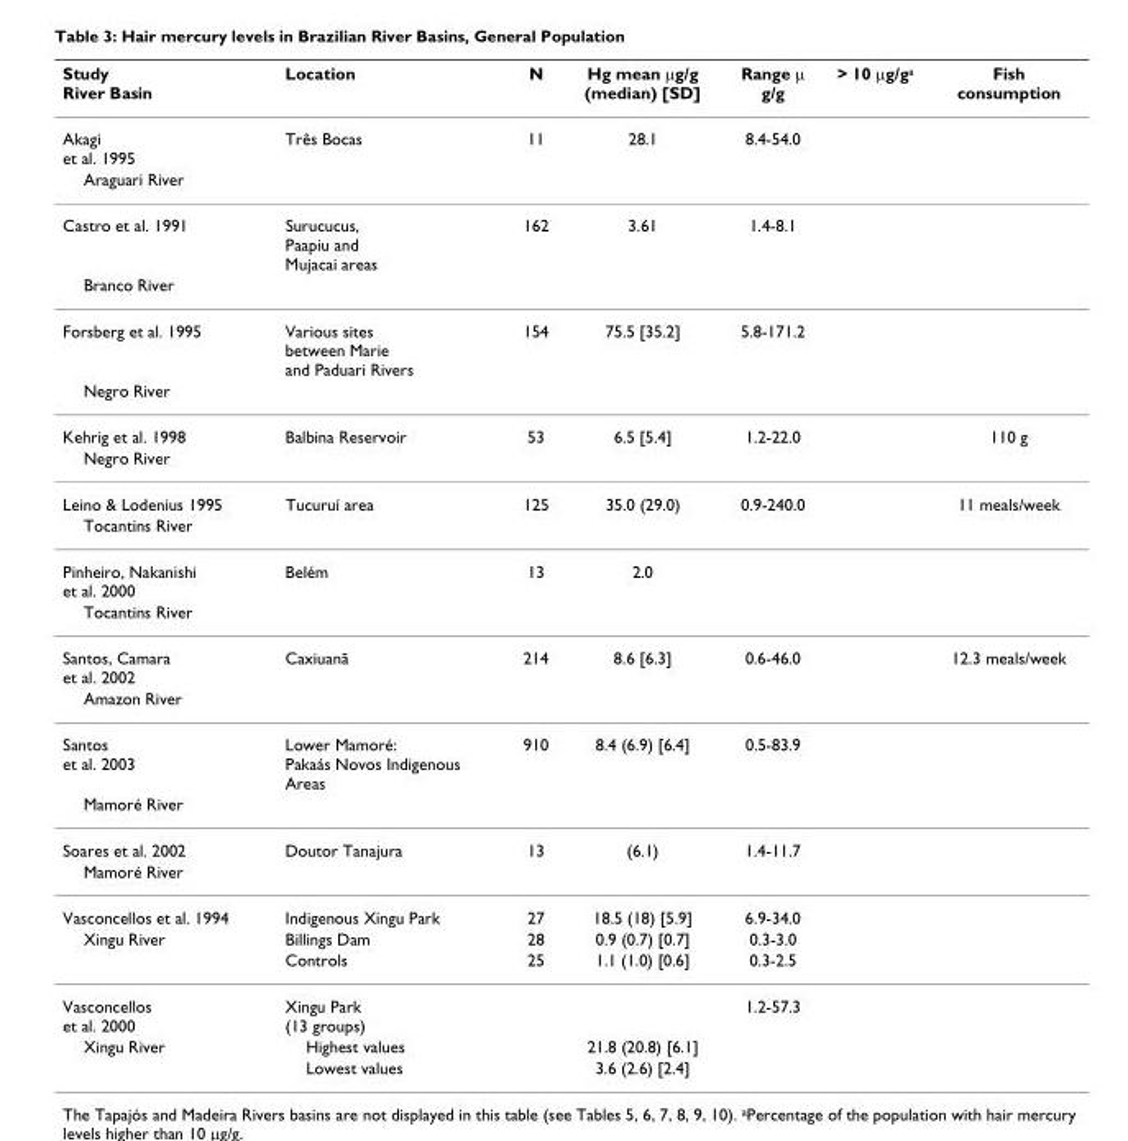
<table><thead><tr><td>Study River Basin</td><td>Location</td><td>N</td><td>Hg mean μg/g (median) [SD]</td><td>Range μ g/g</td><td>&gt; 10 μg/g<sup>a</sup></td><td>Fish consumption</td></tr></thead><tbody><tr><td>Akagi et al. 1995</td><td>Três Bocas</td><td>11</td><td>28.1</td><td>8.4-54.0</td><td></td><td></td></tr><tr><td colspan="7">Araguari River</td></tr><tr><td>Castro et al. 1991</td><td>Surucucus, Paapiu and Mujacai areas</td><td>162</td><td>3.61</td><td>1.4-8.1</td><td></td><td></td></tr><tr><td colspan="7">Branco River</td></tr><tr><td>Forsberg et al. 1995</td><td>Various sites between Marie and Paduari Rivers</td><td>154</td><td>75.5 [35.2]</td><td>5.8-171.2</td><td></td><td></td></tr><tr><td colspan="7">Negro River</td></tr><tr><td>Kehrig et al. 1998</td><td>Balbina Reservoir</td><td>53</td><td>6.5 [5.4]</td><td>1.2-22.0</td><td></td><td>110 g</td></tr><tr><td colspan="7">Negro River</td></tr><tr><td>Leino &amp; Lodenius 1995</td><td>Tucuruí area</td><td>125</td><td>35.0 (29.0)</td><td>0.9-240.0</td><td></td><td>11 meals/week</td></tr><tr><td colspan="7">Tocantins River</td></tr><tr><td>Pinheiro, Nakanishi et al. 2000</td><td>Belém</td><td>13</td><td>2.0</td><td></td><td></td><td></td></tr><tr><td colspan="7">Tocantins River</td></tr><tr><td>Santos, Camara et al. 2002</td><td>Caxiuanã</td><td>214</td><td>8.6 [6.3]</td><td>0.6-46.0</td><td></td><td>12.3 meals/week</td></tr><tr><td colspan="7">Amazon River</td></tr><tr><td>Santos et al. 2003</td><td>Lower Mamoré: Pakaás Novos Indigenous Areas</td><td>910</td><td>8.4 (6.9) [6.4]</td><td>0.5-83.9</td><td></td><td></td></tr><tr><td colspan="7">Mamoré River</td></tr><tr><td>Soares et al. 2002</td><td>Doutor Tanajura</td><td>13</td><td>(6.1)</td><td>1.4-11.7</td><td></td><td></td></tr><tr><td colspan="7">Mamoré River</td></tr><tr><td>Vasconcellos et al. 1994</td><td>Indigenous Xingu Park</td><td>27</td><td>18.5 (18) [5.9]</td><td>6.9-34.0</td><td></td><td></td></tr><tr><td rowspan="2">Xingu River</td><td>Billings Dam</td><td>28</td><td>0.9 (0.7) [0.7]</td><td>0.3-3.0</td><td></td><td></td></tr><tr><td>Controls</td><td>25</td><td>1.1 (1.0) [0.6]</td><td>0.3-2.5</td><td></td><td></td></tr><tr><td>Vasconcellos et al. 2000</td><td>Xingu Park (13 groups)</td><td></td><td></td><td>1.2-57.3</td><td></td><td></td></tr><tr><td rowspan="2">Xingu River</td><td>Highest values</td><td></td><td>21.8 (20.8) [6.1]</td><td></td><td></td><td></td></tr><tr><td>Lowest values</td><td></td><td>3.6 (2.6) [2.4]</td><td></td><td></td><td></td></tr></tbody></table>